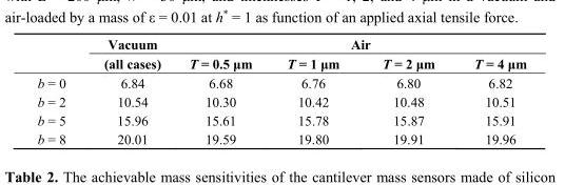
<table><thead><tr><td rowspan="2"></td><td rowspan="2">Vacuum (all cases)</td><td colspan="4">Air</td></tr><tr><td>T = 0.5 μm</td><td>T = 1 μm</td><td>T = 2 μm</td><td>T = 4 μm</td></tr></thead><tbody><tr><td>b = 0</td><td>6.84</td><td>6.68</td><td>6.76</td><td>6.80</td><td>6.82</td></tr><tr><td>b = 2</td><td>10.54</td><td>10.30</td><td>10.42</td><td>10.48</td><td>10.51</td></tr><tr><td>b = 5</td><td>15.96</td><td>15.61</td><td>15.78</td><td>15.87</td><td>15.91</td></tr><tr><td>b = 8</td><td>20.01</td><td>19.59</td><td>19.80</td><td>19.91</td><td>19.96</td></tr></tbody></table>